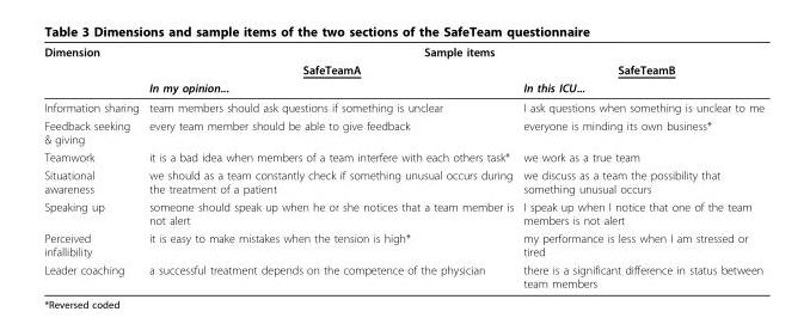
<table><thead><tr><td rowspan="3">Dimension</td><td colspan="2">Sample items</td></tr><tr><td rowspan="2">SafeTeamA In my opinion...</td><td rowspan="2">SafeTeamB In this ICU...</td></tr><tr></tr></thead><tbody><tr><td>Information sharing</td><td>team members should ask questions if something is unclear</td><td>I ask questions when something is unclear to me</td></tr><tr><td>Feedback seeking &amp; giving</td><td>every team member should be able to give feedback</td><td>everyone is minding its own business*</td></tr><tr><td>Teamwork</td><td>it is a bad idea when members of a team interfere with each others task*</td><td>we work as a true team</td></tr><tr><td>Situational awareness</td><td>we should as a team constantly check if something unusual occurs during the treatment of a patient</td><td>we discuss as a team the possibility that something unusual occurs</td></tr><tr><td>Speaking up</td><td>someone should speak up when he or she notices that a team member is not alert</td><td>I speak up when I notice that one of the team members is not alert</td></tr><tr><td>Perceived infallibility</td><td>it is easy to make mistakes when the tension is high*</td><td>my performance is less when I am stressed or tired</td></tr><tr><td>Leader coaching</td><td>a successful treatment depends on the competence of the physician</td><td>there is a significant difference in status between team members</td></tr></tbody></table>